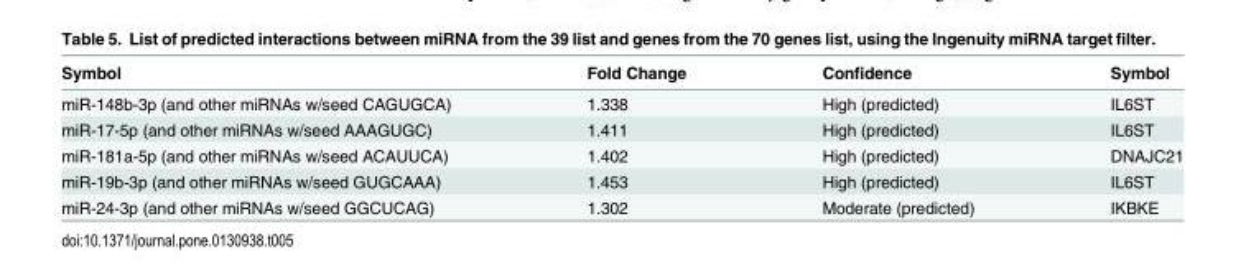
<table><thead><tr><td>Symbol</td><td>Fold Change</td><td>Confidence</td><td>Symbol</td></tr></thead><tbody><tr><td>miR-148b-3p (and other miRNAs w/seed CAGUGCA)</td><td>1.338</td><td>High (predicted)</td><td>IL6ST</td></tr><tr><td>miR-17-5p (and other miRNAs w/seed AAAGUGC)</td><td>1.411</td><td>High (predicted)</td><td>IL6ST</td></tr><tr><td>miR-181a-5p (and other miRNAs w/seed ACAUUCA)</td><td>1.402</td><td>High (predicted)</td><td>DNAJC21</td></tr><tr><td>miR-19b-3p (and other miRNAs w/seed GUGCAAA)</td><td>1.453</td><td>High (predicted)</td><td>IL6ST</td></tr><tr><td>miR-24-3p (and other miRNAs w/seed GGCUCAG)</td><td>1.302</td><td>Moderate (predicted)</td><td>IKBKE</td></tr></tbody></table>